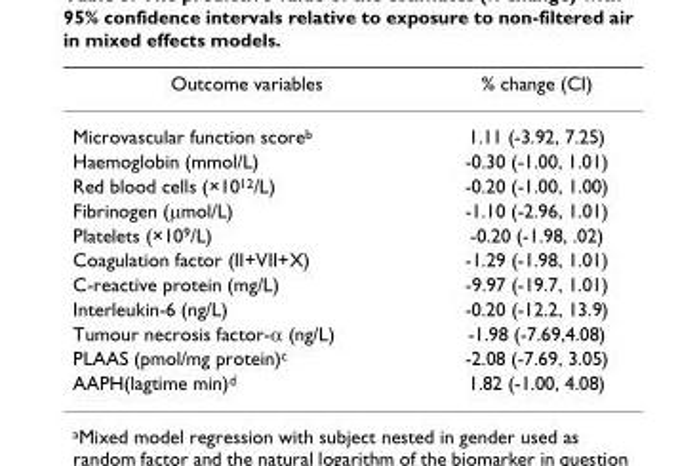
<table><thead><tr><td>Outcome variables</td><td>% change (CI)</td></tr></thead><tbody><tr><td>Microvascular function score<sup>b</sup></td><td>1.11 (-3.92, 7.25)</td></tr><tr><td>Haemoglobin (mmol/L)</td><td>-0.30 (-1.00, 1.01)</td></tr><tr><td>Red blood cells (×10<sup>12</sup>/L)</td><td>-0.20 (-1.00, 1.00)</td></tr><tr><td>Fibrinogen (μmol/L)</td><td>-1.10 (-2.96, 1.01)</td></tr><tr><td>Platelets (×10<sup>9</sup>/L)</td><td>-0.20 (-1.98, .02)</td></tr><tr><td>Coagulation factor (II+VII+X)</td><td>-1.29 (-1.98, 1.01)</td></tr><tr><td>C-reactive protein (mg/L)</td><td>-9.97 (-19.7, 1.01)</td></tr><tr><td>Interleukin-6 (ng/L)</td><td>-0.20 (-12.2, 13.9)</td></tr><tr><td>Tumour necrosis factor-α (ng/L)</td><td>-1.98 (-7.69,4.08)</td></tr><tr><td>PLAAS (pmol/mg protein)<sup>c</sup></td><td>-2.08 (-7.69, 3.05)</td></tr><tr><td>AAPH(lagtime min)<sup>d</sup></td><td>1.82 (-1.00, 4.08)</td></tr></tbody></table>